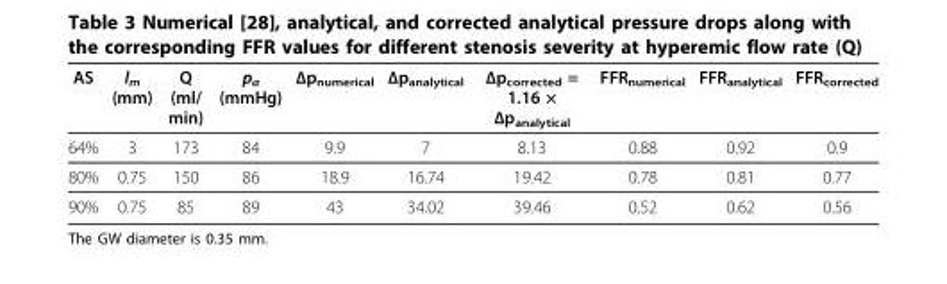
<table><thead><tr><td>AS</td><td>l<sub>m</sub> (mm)</td><td>Q (ml/ min)</td><td>p<sub>a</sub> (mmHg)</td><td>Δp<sub>numerical</sub></td><td>Δp<sub>analytical</sub></td><td>Δp<sub>corrected</sub> = 1.16 × Δp<sub>analytical</sub></td><td>FFR<sub>numerical</sub></td><td>FFR<sub>analytical</sub></td><td>FFR<sub>corrected</sub></td></tr></thead><tbody><tr><td>64%</td><td>3</td><td>173</td><td>84</td><td>9.9</td><td>7</td><td>8.13</td><td>0.88</td><td>0.92</td><td>0.9</td></tr><tr><td>80%</td><td>0.75</td><td>150</td><td>86</td><td>18.9</td><td>16.74</td><td>19.42</td><td>0.78</td><td>0.81</td><td>0.77</td></tr><tr><td>90%</td><td>0.75</td><td>85</td><td>89</td><td>43</td><td>34.02</td><td>39.46</td><td>0.52</td><td>0.62</td><td>0.56</td></tr></tbody></table>